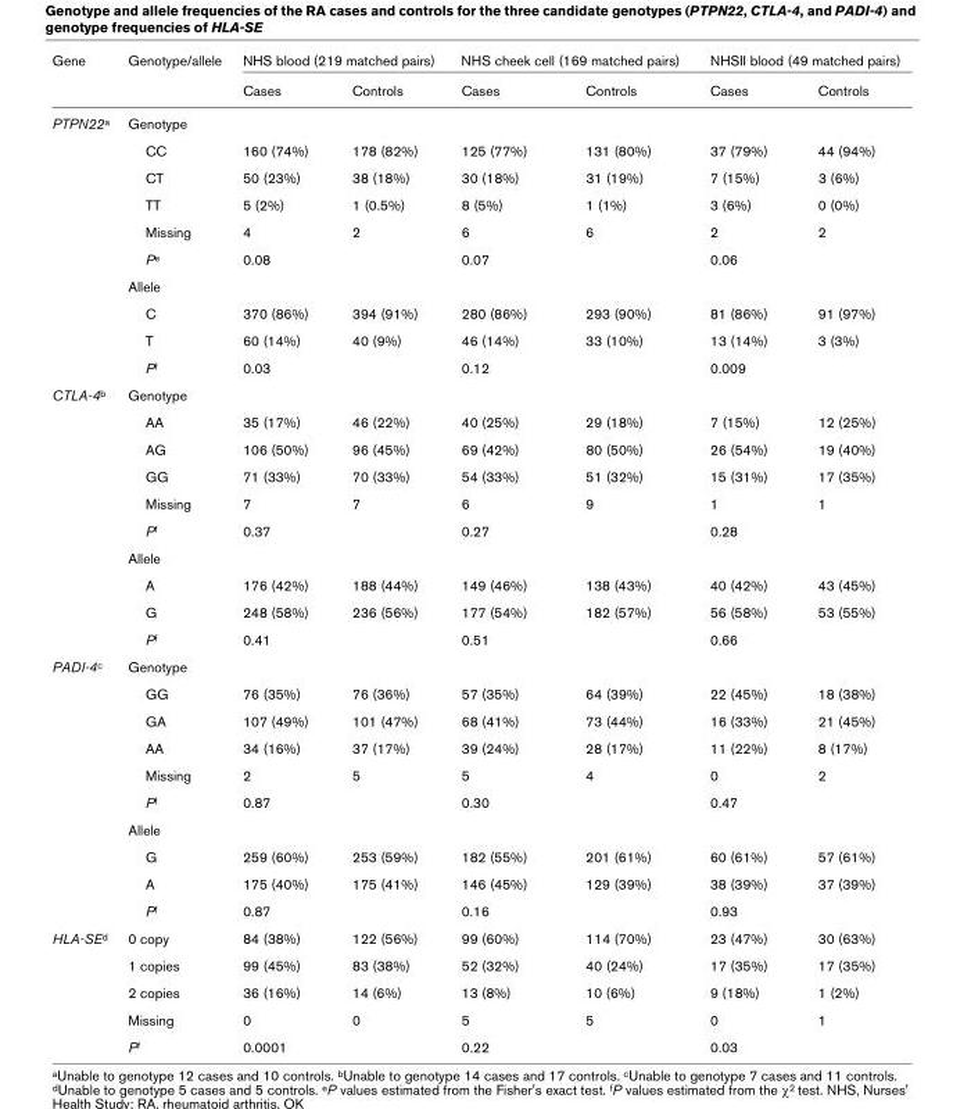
<table><thead><tr><td rowspan="2">Gene</td><td rowspan="2">Genotype/allele</td><td colspan="2">NHS blood (219 matched pairs)</td><td colspan="2">NHS cheek cell (169 matched pairs)</td><td colspan="2">NHSII blood (49 matched pairs)</td></tr><tr><td>Cases</td><td>Controls</td><td>Cases</td><td>Controls</td><td>Cases</td><td>Controls</td></tr></thead><tbody><tr><td rowspan="10">PTPN22<sup>a</sup></td><td>Genotype</td><td></td><td></td><td></td><td></td><td></td><td></td></tr><tr><td>CC</td><td>160 (74%)</td><td>178 (82%)</td><td>125 (77%)</td><td>131 (80%)</td><td>37 (79%)</td><td>44 (94%)</td></tr><tr><td>CT</td><td>50 (23%)</td><td>38 (18%)</td><td>30 (18%)</td><td>31 (19%)</td><td>7 (15%)</td><td>3 (6%)</td></tr><tr><td>TT</td><td>5 (2%)</td><td>1 (0.5%)</td><td>8 (5%)</td><td>1 (1%)</td><td>3 (6%)</td><td>0 (0%)</td></tr><tr><td>Missing</td><td>4</td><td>2</td><td>6</td><td>6</td><td>2</td><td>2</td></tr><tr><td>P<sup>e</sup></td><td>0.08</td><td></td><td>0.07</td><td></td><td>0.06</td><td></td></tr><tr><td>Allele</td><td></td><td></td><td></td><td></td><td></td><td></td></tr><tr><td>C</td><td>370 (86%)</td><td>394 (91%)</td><td>280 (86%)</td><td>293 (90%)</td><td>81 (86%)</td><td>91 (97%)</td></tr><tr><td>T</td><td>60 (14%)</td><td>40 (9%)</td><td>46 (14%)</td><td>33 (10%)</td><td>13 (14%)</td><td>3 (3%)</td></tr><tr><td>P<sup>f</sup></td><td>0.03</td><td></td><td>0.12</td><td></td><td>0.009</td><td></td></tr><tr><td rowspan="10">CTLA-4<sup>b</sup></td><td>Genotype</td><td></td><td></td><td></td><td></td><td></td><td></td></tr><tr><td>AA</td><td>35 (17%)</td><td>46 (22%)</td><td>40 (25%)</td><td>29 (18%)</td><td>7 (15%)</td><td>12 (25%)</td></tr><tr><td>AG</td><td>106 (50%)</td><td>96 (45%)</td><td>69 (42%)</td><td>80 (50%)</td><td>26 (54%)</td><td>19 (40%)</td></tr><tr><td>GG</td><td>71 (33%)</td><td>70 (33%)</td><td>54 (33%)</td><td>51 (32%)</td><td>15 (31%)</td><td>17 (35%)</td></tr><tr><td>Missing</td><td>7</td><td>7</td><td>6</td><td>9</td><td>1</td><td>1</td></tr><tr><td>P<sup>f</sup></td><td>0.37</td><td></td><td>0.27</td><td></td><td>0.28</td><td></td></tr><tr><td>Allele</td><td></td><td></td><td></td><td></td><td></td><td></td></tr><tr><td>A</td><td>176 (42%)</td><td>188 (44%)</td><td>149 (46%)</td><td>138 (43%)</td><td>40 (42%)</td><td>43 (45%)</td></tr><tr><td>G</td><td>248 (58%)</td><td>236 (56%)</td><td>177 (54%)</td><td>182 (57%)</td><td>56 (58%)</td><td>53 (55%)</td></tr><tr><td>P<sup>f</sup></td><td>0.41</td><td></td><td>0.51</td><td></td><td>0.66</td><td></td></tr><tr><td rowspan="10">PADI-4<sup>c</sup></td><td>Genotype</td><td></td><td></td><td></td><td></td><td></td><td></td></tr><tr><td>GG</td><td>76 (35%)</td><td>76 (36%)</td><td>57 (35%)</td><td>64 (39%)</td><td>22 (45%)</td><td>18 (38%)</td></tr><tr><td>GA</td><td>107 (49%)</td><td>101 (47%)</td><td>68 (41%)</td><td>73 (44%)</td><td>16 (33%)</td><td>21 (45%)</td></tr><tr><td>AA</td><td>34 (16%)</td><td>37 (17%)</td><td>39 (24%)</td><td>28 (17%)</td><td>11 (22%)</td><td>8 (17%)</td></tr><tr><td>Missing</td><td>2</td><td>5</td><td>5</td><td>4</td><td>0</td><td>2</td></tr><tr><td>P<sup>f</sup></td><td>0.87</td><td></td><td>0.30</td><td></td><td>0.47</td><td></td></tr><tr><td>Allele</td><td></td><td></td><td></td><td></td><td></td><td></td></tr><tr><td>G</td><td>259 (60%)</td><td>253 (59%)</td><td>182 (55%)</td><td>201 (61%)</td><td>60 (61%)</td><td>57 (61%)</td></tr><tr><td>A</td><td>175 (40%)</td><td>175 (41%)</td><td>146 (45%)</td><td>129 (39%)</td><td>38 (39%)</td><td>37 (39%)</td></tr><tr><td>P<sup>f</sup></td><td>0.87</td><td></td><td>0.16</td><td></td><td>0.93</td><td></td></tr><tr><td rowspan="5">HLA-SE<sup>d</sup></td><td>0 copy</td><td>84 (38%)</td><td>122 (56%)</td><td>99 (60%)</td><td>114 (70%)</td><td>23 (47%)</td><td>30 (63%)</td></tr><tr><td>1 copies</td><td>99 (45%)</td><td>83 (38%)</td><td>52 (32%)</td><td>40 (24%)</td><td>17 (35%)</td><td>17 (35%)</td></tr><tr><td>2 copies</td><td>36 (16%)</td><td>14 (6%)</td><td>13 (8%)</td><td>10 (6%)</td><td>9 (18%)</td><td>1 (2%)</td></tr><tr><td>Missing</td><td>0</td><td>0</td><td>5</td><td>5</td><td>0</td><td>1</td></tr><tr><td>P<sup>f</sup></td><td>0.0001</td><td></td><td>0.22</td><td></td><td>0.03</td><td></td></tr></tbody></table>